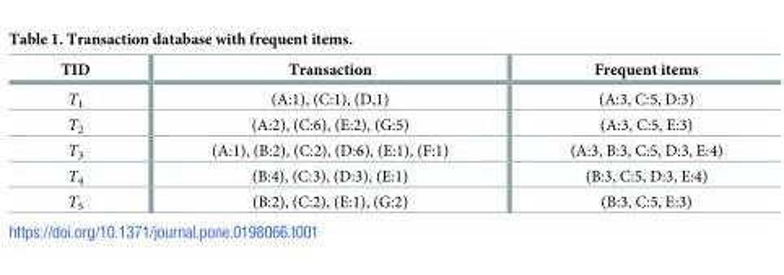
<table><thead><tr><td>TID</td><td>Transaction</td><td>Frequent items</td></tr></thead><tbody><tr><td>T<sub>1</sub></td><td>(A:1), (C:1), (D,1)</td><td>(A:3, C:5, D:3)</td></tr><tr><td>T<sub>2</sub></td><td>(A:2), (C:6), (E:2), (G:5)</td><td>(A:3, C:5, E:3)</td></tr><tr><td>T<sub>3</sub></td><td>(A:1), (B:2), (C:2), (D:6), (E:1), (F:1)</td><td>(A:3, B:3, C:5, D:3, E:4)</td></tr><tr><td>T<sub>4</sub></td><td>(B:4), (C:3), (D:3), (E:1)</td><td>(B:3, C:5, D:3, E:4)</td></tr><tr><td>T<sub>5</sub></td><td>(B:2), (C:2), (E:1), (G:2)</td><td>(B:3, C:5, E:3)</td></tr></tbody></table>